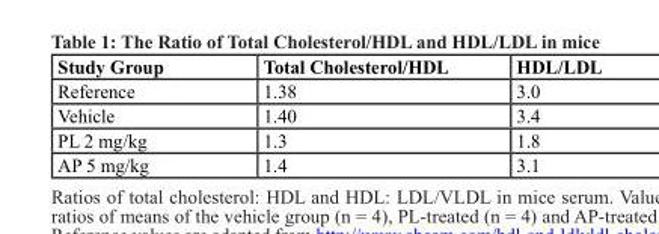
<table><thead><tr><td>Study Group</td><td>Total Cholesterol/HDL</td><td>HDL/LDL</td></tr></thead><tbody><tr><td>Reference</td><td>1.38</td><td>3.0</td></tr><tr><td>Vehicle</td><td>1.40</td><td>3.4</td></tr><tr><td>PL 2 mg/kg</td><td>1.3</td><td>1.8</td></tr><tr><td>AP 5 mg/kg</td><td>1.4</td><td>3.1</td></tr></tbody></table>